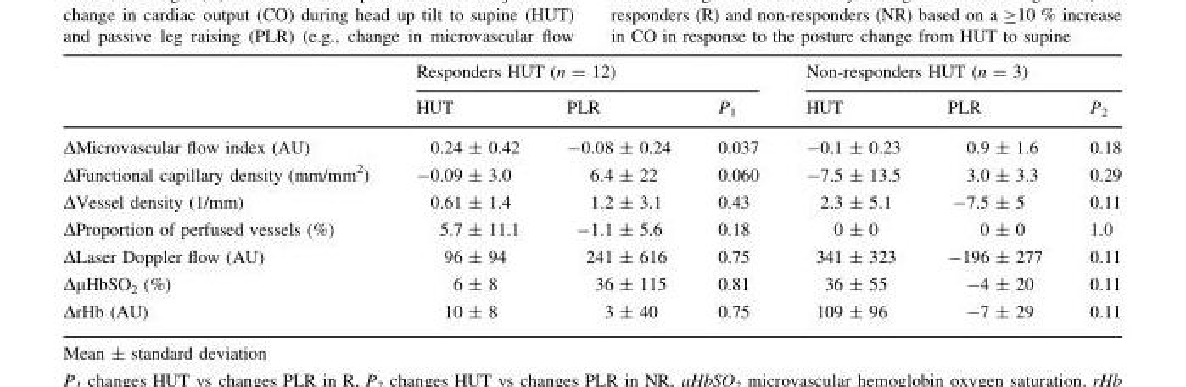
<table><thead><tr><td rowspan="2"></td><td colspan="3">Responders HUT (n = 12)</td><td colspan="3">Non-responders HUT (n = 3)</td></tr><tr><td>HUT</td><td>PLR</td><td>P<sub>1</sub></td><td>HUT</td><td>PLR</td><td>P<sub>2</sub></td></tr></thead><tbody><tr><td>ΔMicrovascular flow index (AU)</td><td>0.24 ± 0.42</td><td>-0.08 ± 0.24</td><td>0.037</td><td>-0.1 ± 0.23</td><td>0.9 ± 1.6</td><td>0.18</td></tr><tr><td>ΔFunctional capillary density (mm/mm<sup>2</sup>)</td><td>-0.09 ± 3.0</td><td>6.4 ± 22</td><td>0.060</td><td>-7.5 ± 13.5</td><td>3.0 ± 3.3</td><td>0.29</td></tr><tr><td>ΔVessel density (1/mm)</td><td>0.61 ± 1.4</td><td>1.2 ± 3.1</td><td>0.43</td><td>2.3 ± 5.1</td><td>-7.5 ± 5</td><td>0.11</td></tr><tr><td>ΔProportion of perfused vessels (%)</td><td>5.7 ± 11.1</td><td>-1.1 ± 5.6</td><td>0.18</td><td>0 ± 0</td><td>0 ± 0</td><td>1.0</td></tr><tr><td>ΔLaser Doppler flow (AU)</td><td>96 ± 94</td><td>241 ± 616</td><td>0.75</td><td>341 ± 323</td><td>-196 ± 277</td><td>0.11</td></tr><tr><td>ΔµHbSO<sub>2</sub> (%)</td><td>6 ± 8</td><td>36 ± 115</td><td>0.81</td><td>36 ± 55</td><td>-4 ± 20</td><td>0.11</td></tr><tr><td>ΔrHb (AU)</td><td>10 ± 8</td><td>3 ± 40</td><td>0.75</td><td>109 ± 96</td><td>-7 ± 29</td><td>0.11</td></tr></tbody></table>